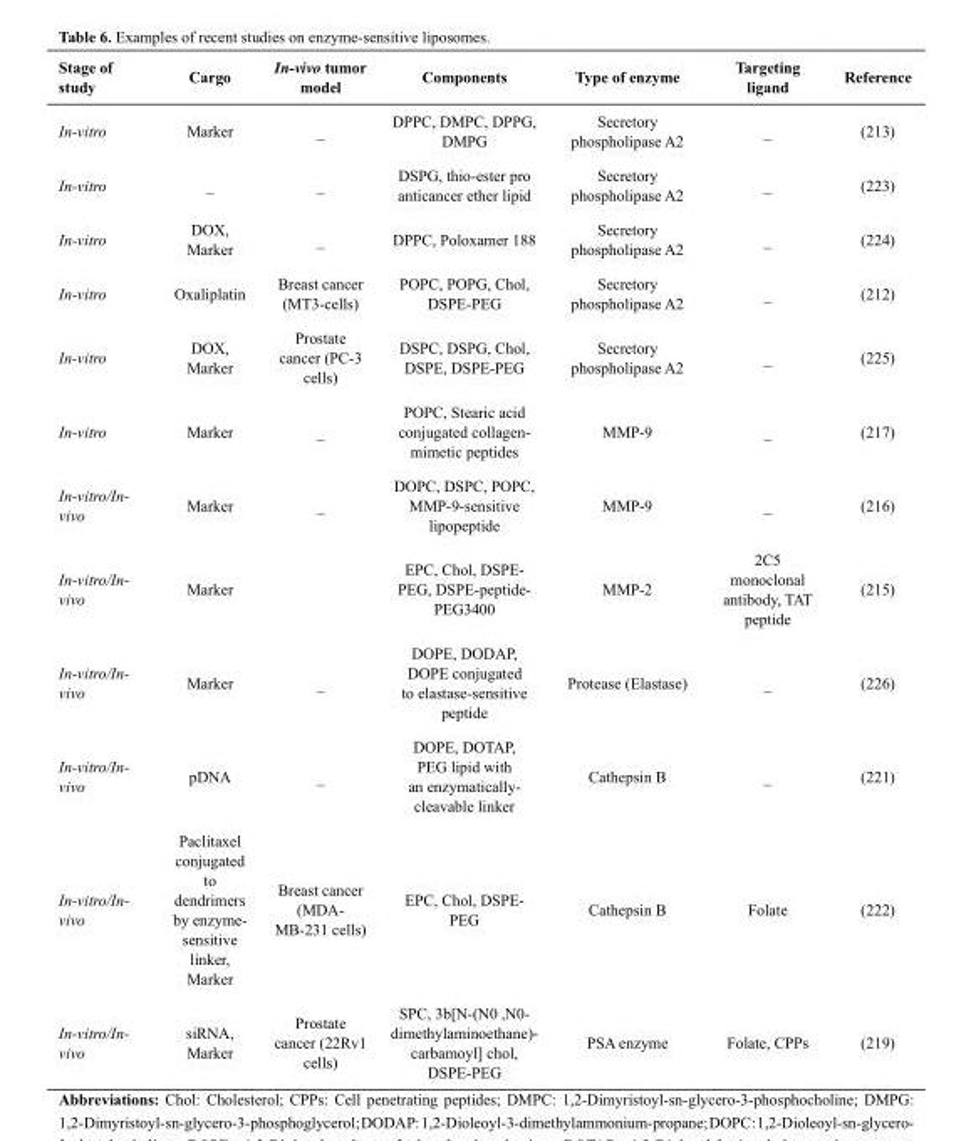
<table><thead><tr><td>Stage of study</td><td>Cargo</td><td>In-vivo tumor model</td><td>Components</td><td>Type of enzyme</td><td>Targeting ligand</td><td>Reference</td></tr></thead><tbody><tr><td>In-vitro</td><td>Marker</td><td>_</td><td>DPPC, DMPC, DPPG, DMPG</td><td>Secretory phospholipase A2</td><td>_</td><td>(213)</td></tr><tr><td>In-vitro</td><td>_</td><td>_</td><td>DSPG, thio-ester pro anticancer ether lipid</td><td>Secretory phospholipase A2</td><td>_</td><td>(223)</td></tr><tr><td>In-vitro</td><td>DOX, Marker</td><td>_</td><td>DPPC, Poloxamer 188</td><td>Secretory phospholipase A2</td><td>_</td><td>(224)</td></tr><tr><td>In-vitro</td><td>Oxaliplatin</td><td>Breast cancer (MT3-cells)</td><td>POPC, POPG, Chol, DSPE-PEG</td><td>Secretory phospholipase A2</td><td>_</td><td>(212)</td></tr><tr><td>In-vitro</td><td>DOX, Marker</td><td>Prostate cancer (PC-3 cells)</td><td>DSPC, DSPG, Chol, DSPE, DSPE-PEG</td><td>Secretory phospholipase A2</td><td>_</td><td>(225)</td></tr><tr><td>In-vitro</td><td>Marker</td><td>_</td><td>POPC, Stearic acid conjugated collagen- mimetic peptides</td><td>MMP-9</td><td>_</td><td>(217)</td></tr><tr><td>In-vitro/In- vivo</td><td>Marker</td><td>_</td><td>DOPC, DSPC, POPC, MMP-9-sensitive lipopeptide</td><td>MMP-9</td><td>_</td><td>(216)</td></tr><tr><td>In-vitro/In- vivo</td><td>Marker</td><td></td><td>EPC, Chol, DSPE- PEG, DSPE-peptide- PEG3400</td><td>MMP-2</td><td>2C5 monoclonal antibody, TAT peptide</td><td>(215)</td></tr><tr><td>In-vitro/In- vivo</td><td>Marker</td><td>_</td><td>DOPE, DODAP, DOPE conjugated to elastase-sensitive peptide</td><td>Protease (Elastase)</td><td>_</td><td>(226)</td></tr><tr><td>In-vitro/In- vivo</td><td>pDNA</td><td>_</td><td>DOPE, DOTAP, PEG lipid with an enzymatically- cleavable linker</td><td>Cathepsin B</td><td>_</td><td>(221)</td></tr><tr><td>In-vitro/In- vivo</td><td>Paclitaxel conjugated to dendrimers by enzyme- sensitive linker, Marker</td><td>Breast cancer (MDA- MB-231 cells)</td><td>EPC, Chol, DSPE- PEG</td><td>Cathepsin B</td><td>Folate</td><td>(222)</td></tr><tr><td>In-vitro/In- vivo</td><td>siRNA, Marker</td><td>Prostate cancer (22Rv1 cells)</td><td>SPC, 3b[N-(N0 ,N0- dimethylaminoethane)- carbamoyl] chol, DSPE-PEG</td><td>PSA enzyme</td><td>Folate, CPPs</td><td>(219)</td></tr></tbody></table>